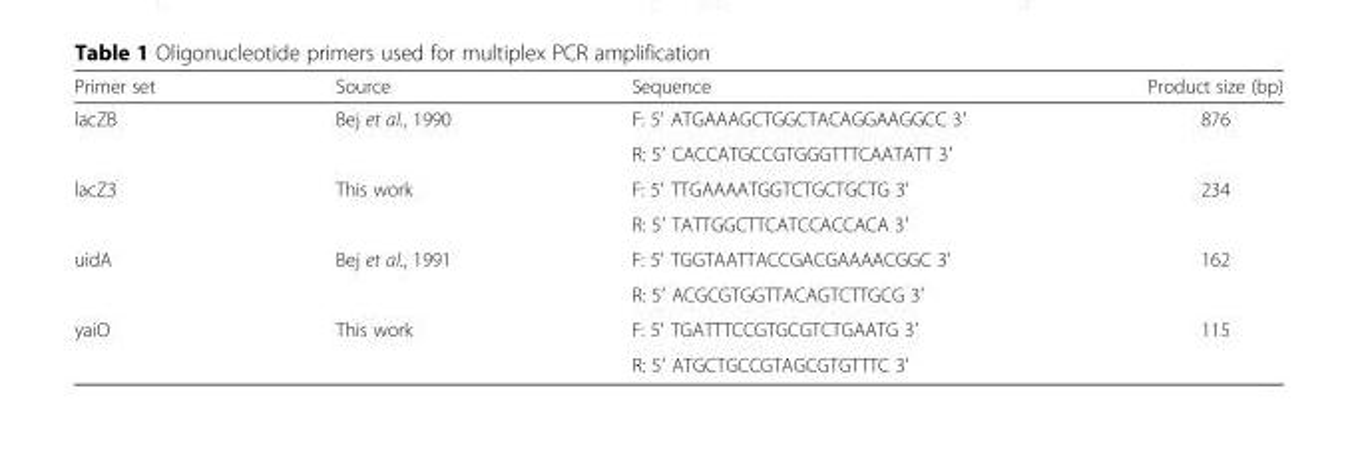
<table><thead><tr><td>Primer set</td><td>Source</td><td>Sequence</td><td>Product size (bp)</td></tr></thead><tbody><tr><td rowspan="2">lacZB</td><td rowspan="2">Bej et al., 1990</td><td>F: 5′ ATGAAAGCTGGCTACAGGAAGGCC 3′</td><td rowspan="2">876</td></tr><tr><td>R: 5′ CACCATGCCGTGGGTTTCAATATT 3′</td></tr><tr><td rowspan="2">lacZ3</td><td rowspan="2">This work</td><td>F: 5′ TTGAAAATGGTCTGCTGCTG 3′</td><td rowspan="2">234</td></tr><tr><td>R: 5′ TATTGGCTTCATCCACCACA 3′</td></tr><tr><td rowspan="2">uidA</td><td rowspan="2">Bej et al., 1991</td><td>F: 5′ TGGTAATTACCGACGAAAACGGC 3′</td><td rowspan="2">162</td></tr><tr><td>R: 5′ ACGCGTGGTTACAGTCTTGCG 3′</td></tr><tr><td rowspan="2">yaiO</td><td rowspan="2">This work</td><td>F: 5′ TGATTTCCGTGCGTCTGAATG 3′</td><td rowspan="2">115</td></tr><tr><td>R: 5′ ATGCTGCCGTAGCGTGTTTC 3′</td></tr></tbody></table>